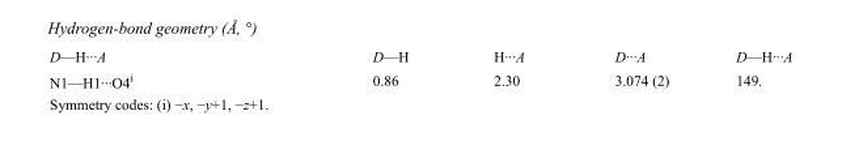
<table><tbody><tr><td>D—H···A</td><td>D—H</td><td>H···A</td><td>D···A</td><td>D—H···A</td></tr><tr><td>N1—H1···O4<sup>i</sup></td><td>0.86</td><td>2.30</td><td>3.074 (2)</td><td>149.</td></tr></tbody></table>